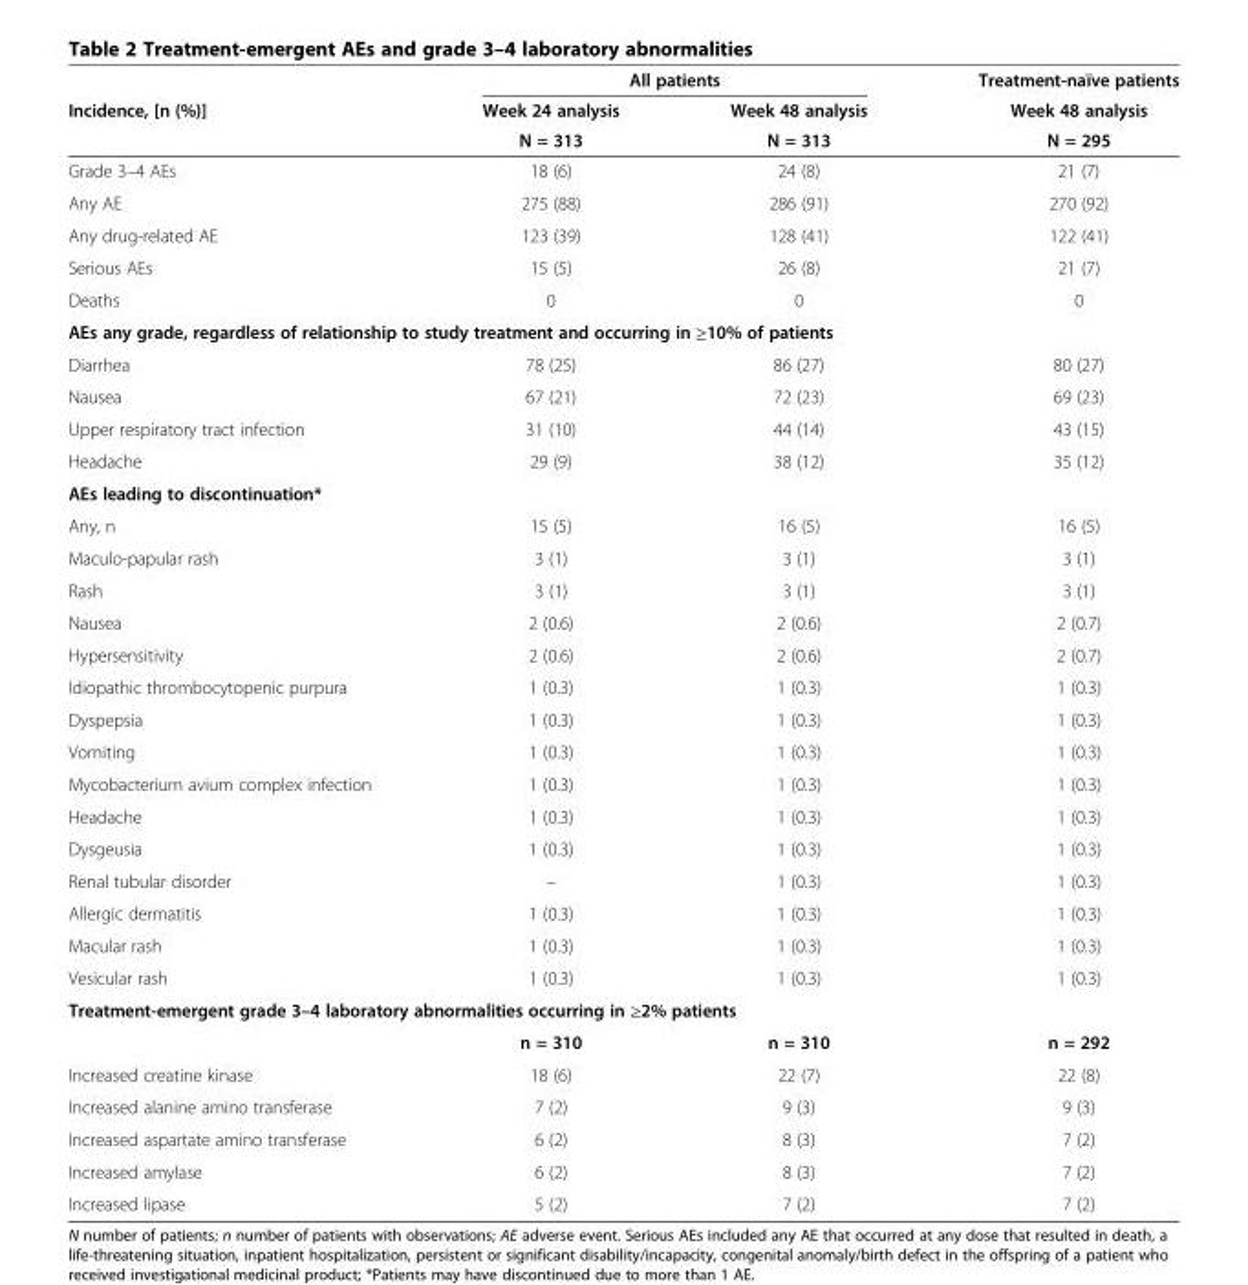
<table><thead><tr><td rowspan="3">Incidence, [n (%)]</td><td colspan="2">All patients</td><td rowspan="3">Treatment-naïve patients Week 48 analysis N = 295</td></tr><tr><td rowspan="2">Week 24 analysis N = 313</td><td rowspan="2">Week 48 analysis N = 313</td></tr><tr></tr></thead><tbody><tr><td>Grade 3–4 AEs</td><td>18 (6)</td><td>24 (8)</td><td>21 (7)</td></tr><tr><td>Any AE</td><td>275 (88)</td><td>286 (91)</td><td>270 (92)</td></tr><tr><td>Any drug-related AE</td><td>123 (39)</td><td>128 (41)</td><td>122 (41)</td></tr><tr><td>Serious AEs</td><td>15 (5)</td><td>26 (8)</td><td>21 (7)</td></tr><tr><td>Deaths</td><td>0</td><td>0</td><td>0</td></tr><tr><td colspan="4">AEs any grade, regardless of relationship to study treatment and occurring in ≥10% of patients</td></tr><tr><td>Diarrhea</td><td>78 (25)</td><td>86 (27)</td><td>80 (27)</td></tr><tr><td>Nausea</td><td>67 (21)</td><td>72 (23)</td><td>69 (23)</td></tr><tr><td>Upper respiratory tract infection</td><td>31 (10)</td><td>44 (14)</td><td>43 (15)</td></tr><tr><td>Headache</td><td>29 (9)</td><td>38 (12)</td><td>35 (12)</td></tr><tr><td colspan="4">AEs leading to discontinuation*</td></tr><tr><td>Any, n</td><td>15 (5)</td><td>16 (5)</td><td>16 (5)</td></tr><tr><td>Maculo-papular rash</td><td>3 (1)</td><td>3 (1)</td><td>3 (1)</td></tr><tr><td>Rash</td><td>3 (1)</td><td>3 (1)</td><td>3 (1)</td></tr><tr><td>Nausea</td><td>2 (0.6)</td><td>2 (0.6)</td><td>2 (0.7)</td></tr><tr><td>Hypersensitivity</td><td>2 (0.6)</td><td>2 (0.6)</td><td>2 (0.7)</td></tr><tr><td>Idiopathic thrombocytopenic purpura</td><td>1 (0.3)</td><td>1 (0.3)</td><td>1 (0.3)</td></tr><tr><td>Dyspepsia</td><td>1 (0.3)</td><td>1 (0.3)</td><td>1 (0.3)</td></tr><tr><td>Vomiting</td><td>1 (0.3)</td><td>1 (0.3)</td><td>1 (0.3)</td></tr><tr><td>Mycobacterium avium complex infection</td><td>1 (0.3)</td><td>1 (0.3)</td><td>1 (0.3)</td></tr><tr><td>Headache</td><td>1 (0.3)</td><td>1 (0.3)</td><td>1 (0.3)</td></tr><tr><td>Dysgeusia</td><td>1 (0.3)</td><td>1 (0.3)</td><td>1 (0.3)</td></tr><tr><td>Renal tubular disorder</td><td>–</td><td>1 (0.3)</td><td>1 (0.3)</td></tr><tr><td>Allergic dermatitis</td><td>1 (0.3)</td><td>1 (0.3)</td><td>1 (0.3)</td></tr><tr><td>Macular rash</td><td>1 (0.3)</td><td>1 (0.3)</td><td>1 (0.3)</td></tr><tr><td>Vesicular rash</td><td>1 (0.3)</td><td>1 (0.3)</td><td>1 (0.3)</td></tr><tr><td colspan="4">Treatment-emergent grade 3–4 laboratory abnormalities occurring in ≥2% patients</td></tr><tr><td></td><td>n = 310</td><td>n = 310</td><td>n = 292</td></tr><tr><td>Increased creatine kinase</td><td>18 (6)</td><td>22 (7)</td><td>22 (8)</td></tr><tr><td>Increased alanine amino transferase</td><td>7 (2)</td><td>9 (3)</td><td>9 (3)</td></tr><tr><td>Increased aspartate amino transferase</td><td>6 (2)</td><td>8 (3)</td><td>7 (2)</td></tr><tr><td>Increased amylase</td><td>6 (2)</td><td>8 (3)</td><td>7 (2)</td></tr><tr><td>Increased lipase</td><td>5 (2)</td><td>7 (2)</td><td>7 (2)</td></tr></tbody></table>